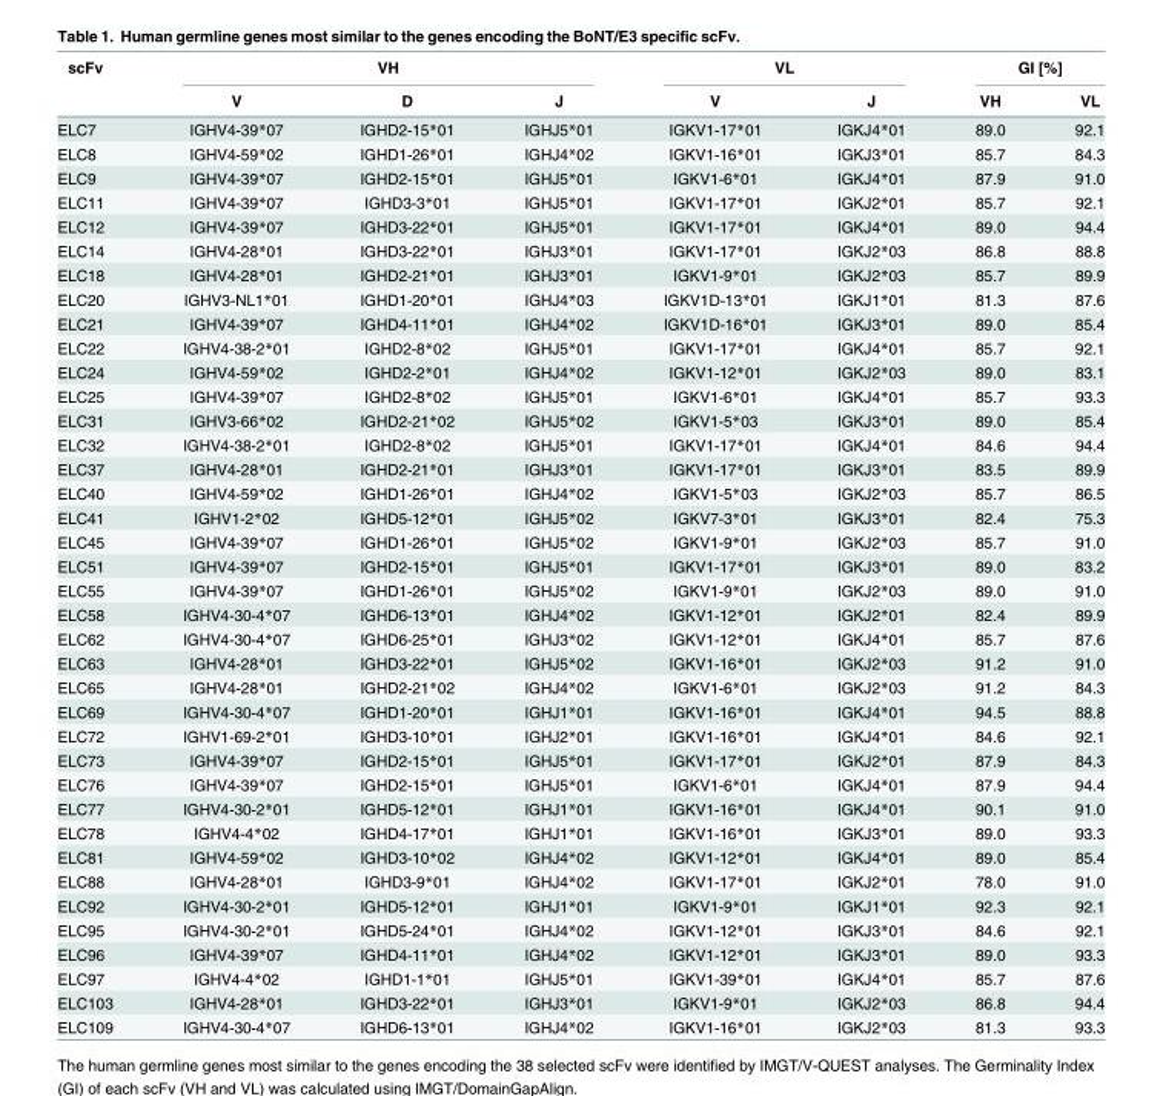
<table><thead><tr><td rowspan="2">scFv</td><td colspan="3">VH</td><td colspan="2">VL</td><td colspan="2">GI [%]</td></tr><tr><td>V</td><td>D</td><td>J</td><td>V</td><td>J</td><td>VH</td><td>VL</td></tr></thead><tbody><tr><td>ELC7</td><td>IGHV4-39*07</td><td>IGHD2-15*01</td><td>IGHJ5*01</td><td>IGKV1-17*01</td><td>IGKJ4*01</td><td>89.0</td><td>92.1</td></tr><tr><td>ELC8</td><td>IGHV4-59*02</td><td>IGHD1-26*01</td><td>IGHJ4*02</td><td>IGKV1-16*01</td><td>IGKJ3*01</td><td>85.7</td><td>84.3</td></tr><tr><td>ELC9</td><td>IGHV4-39*07</td><td>IGHD2-15*01</td><td>IGHJ5*01</td><td>IGKV1-6*01</td><td>IGKJ4*01</td><td>87.9</td><td>91.0</td></tr><tr><td>ELC11</td><td>IGHV4-39*07</td><td>IGHD3-3*01</td><td>IGHJ5*01</td><td>IGKV1-17*01</td><td>IGKJ2*01</td><td>85.7</td><td>92.1</td></tr><tr><td>ELC12</td><td>IGHV4-39*07</td><td>IGHD3-22*01</td><td>IGHJ5*01</td><td>IGKV1-17*01</td><td>IGKJ4*01</td><td>89.0</td><td>94.4</td></tr><tr><td>ELC14</td><td>IGHV4-28*01</td><td>IGHD3-22*01</td><td>IGHJ3*01</td><td>IGKV1-17*01</td><td>IGKJ2*03</td><td>86.8</td><td>88.8</td></tr><tr><td>ELC18</td><td>IGHV4-28*01</td><td>IGHD2-21*01</td><td>IGHJ3*01</td><td>IGKV1-9*01</td><td>IGKJ2*03</td><td>85.7</td><td>89.9</td></tr><tr><td>ELC20</td><td>IGHV3-NL1*01</td><td>IGHD1-20*01</td><td>IGHJ4*03</td><td>IGKV1D-13*01</td><td>IGKJ1*01</td><td>81.3</td><td>87.6</td></tr><tr><td>ELC21</td><td>IGHV4-39*07</td><td>IGHD4-11*01</td><td>IGHJ4*02</td><td>IGKV1D-16*01</td><td>IGKJ3*01</td><td>89.0</td><td>85.4</td></tr><tr><td>ELC22</td><td>IGHV4-38-2*01</td><td>IGHD2-8*02</td><td>IGHJ5*01</td><td>IGKV1-17*01</td><td>IGKJ4*01</td><td>85.7</td><td>92.1</td></tr><tr><td>ELC24</td><td>IGHV4-59*02</td><td>IGHD2-2*01</td><td>IGHJ4*02</td><td>IGKV1-12*01</td><td>IGKJ2*03</td><td>89.0</td><td>83.1</td></tr><tr><td>ELC25</td><td>IGHV4-39*07</td><td>IGHD2-8*02</td><td>IGHJ5*01</td><td>IGKV1-6*01</td><td>IGKJ4*01</td><td>85.7</td><td>93.3</td></tr><tr><td>ELC31</td><td>IGHV3-66*02</td><td>IGHD2-21*02</td><td>IGHJ5*02</td><td>IGKV1-5*03</td><td>IGKJ3*01</td><td>89.0</td><td>85.4</td></tr><tr><td>ELC32</td><td>IGHV4-38-2*01</td><td>IGHD2-8*02</td><td>IGHJ5*01</td><td>IGKV1-17*01</td><td>IGKJ4*01</td><td>84.6</td><td>94.4</td></tr><tr><td>ELC37</td><td>IGHV4-28*01</td><td>IGHD2-21*01</td><td>IGHJ3*01</td><td>IGKV1-17*01</td><td>IGKJ3*01</td><td>83.5</td><td>89.9</td></tr><tr><td>ELC40</td><td>IGHV4-59*02</td><td>IGHD1-26*01</td><td>IGHJ4*02</td><td>IGKV1-5*03</td><td>IGKJ2*03</td><td>85.7</td><td>86.5</td></tr><tr><td>ELC41</td><td>IGHV1-2*02</td><td>IGHD5-12*01</td><td>IGHJ5*02</td><td>IGKV7-3*01</td><td>IGKJ3*01</td><td>82.4</td><td>75.3</td></tr><tr><td>ELC45</td><td>IGHV4-39*07</td><td>IGHD1-26*01</td><td>IGHJ5*02</td><td>IGKV1-9*01</td><td>IGKJ2*03</td><td>85.7</td><td>91.0</td></tr><tr><td>ELC51</td><td>IGHV4-39*07</td><td>IGHD2-15*01</td><td>IGHJ5*01</td><td>IGKV1-17*01</td><td>IGKJ3*01</td><td>89.0</td><td>83.2</td></tr><tr><td>ELC55</td><td>IGHV4-39*07</td><td>IGHD1-26*01</td><td>IGHJ5*02</td><td>IGKV1-9*01</td><td>IGKJ2*03</td><td>89.0</td><td>91.0</td></tr><tr><td>ELC58</td><td>IGHV4-30-4*07</td><td>IGHD6-13*01</td><td>IGHJ4*02</td><td>IGKV1-12*01</td><td>IGKJ2*01</td><td>82.4</td><td>89.9</td></tr><tr><td>ELC62</td><td>IGHV4-30-4*07</td><td>IGHD6-25*01</td><td>IGHJ3*02</td><td>IGKV1-12*01</td><td>IGKJ4*01</td><td>85.7</td><td>87.6</td></tr><tr><td>ELC63</td><td>IGHV4-28*01</td><td>IGHD3-22*01</td><td>IGHJ5*02</td><td>IGKV1-16*01</td><td>IGKJ2*03</td><td>91.2</td><td>91.0</td></tr><tr><td>ELC65</td><td>IGHV4-28*01</td><td>IGHD2-21*02</td><td>IGHJ4*02</td><td>IGKV1-6*01</td><td>IGKJ2*03</td><td>91.2</td><td>84.3</td></tr><tr><td>ELC69</td><td>IGHV4-30-4*07</td><td>IGHD1-20*01</td><td>IGHJ1*01</td><td>IGKV1-16*01</td><td>IGKJ4*01</td><td>94.5</td><td>88.8</td></tr><tr><td>ELC72</td><td>IGHV1-69-2*01</td><td>IGHD3-10*01</td><td>IGHJ2*01</td><td>IGKV1-16*01</td><td>IGKJ4*01</td><td>84.6</td><td>92.1</td></tr><tr><td>ELC73</td><td>IGHV4-39*07</td><td>IGHD2-15*01</td><td>IGHJ5*01</td><td>IGKV1-17*01</td><td>IGKJ2*01</td><td>87.9</td><td>84.3</td></tr><tr><td>ELC76</td><td>IGHV4-39*07</td><td>IGHD2-15*01</td><td>IGHJ5*01</td><td>IGKV1-6*01</td><td>IGKJ4*01</td><td>87.9</td><td>94.4</td></tr><tr><td>ELC77</td><td>IGHV4-30-2*01</td><td>IGHD5-12*01</td><td>IGHJ1*01</td><td>IGKV1-16*01</td><td>IGKJ4*01</td><td>90.1</td><td>91.0</td></tr><tr><td>ELC78</td><td>IGHV4-4*02</td><td>IGHD4-17*01</td><td>IGHJ1*01</td><td>IGKV1-16*01</td><td>IGKJ3*01</td><td>89.0</td><td>93.3</td></tr><tr><td>ELC81</td><td>IGHV4-59*02</td><td>IGHD3-10*02</td><td>IGHJ4*02</td><td>IGKV1-12*01</td><td>IGKJ4*01</td><td>89.0</td><td>85.4</td></tr><tr><td>ELC88</td><td>IGHV4-28*01</td><td>IGHD3-9*01</td><td>IGHJ4*02</td><td>IGKV1-17*01</td><td>IGKJ2*01</td><td>78.0</td><td>91.0</td></tr><tr><td>ELC92</td><td>IGHV4-30-2*01</td><td>IGHD5-12*01</td><td>IGHJ1*01</td><td>IGKV1-9*01</td><td>IGKJ1*01</td><td>92.3</td><td>92.1</td></tr><tr><td>ELC95</td><td>IGHV4-30-2*01</td><td>IGHD5-24*01</td><td>IGHJ4*02</td><td>IGKV1-12*01</td><td>IGKJ3*01</td><td>84.6</td><td>92.1</td></tr><tr><td>ELC96</td><td>IGHV4-39*07</td><td>IGHD4-11*01</td><td>IGHJ4*02</td><td>IGKV1-12*01</td><td>IGKJ3*01</td><td>89.0</td><td>93.3</td></tr><tr><td>ELC97</td><td>IGHV4-4*02</td><td>IGHD1-1*01</td><td>IGHJ5*01</td><td>IGKV1-39*01</td><td>IGKJ4*01</td><td>85.7</td><td>87.6</td></tr><tr><td>ELC103</td><td>IGHV4-28*01</td><td>IGHD3-22*01</td><td>IGHJ3*01</td><td>IGKV1-9*01</td><td>IGKJ2*03</td><td>86.8</td><td>94.4</td></tr><tr><td>ELC109</td><td>IGHV4-30-4*07</td><td>IGHD6-13*01</td><td>IGHJ4*02</td><td>IGKV1-16*01</td><td>IGKJ2*03</td><td>81.3</td><td>93.3</td></tr></tbody></table>